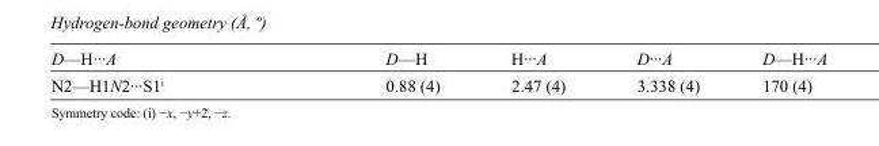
<table><tbody><tr><td>D—H···A</td><td>D—H</td><td>H···A</td><td>D···A</td><td>D—H···A</td></tr><tr><td>N2—H1N2···S1<sup>i</sup></td><td>0.88 (4)</td><td>2.47 (4)</td><td>3.338 (4)</td><td>170 (4)</td></tr></tbody></table>